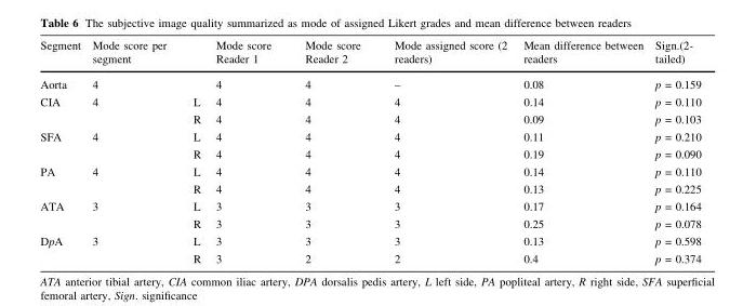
<table><thead><tr><td>Segment</td><td>Mode score per segment</td><td></td><td>Mode score Reader 1</td><td>Mode score Reader 2</td><td>Mode assigned score (2 readers)</td><td>Mean difference between readers</td><td>Sign.(2- tailed)</td></tr></thead><tbody><tr><td>Aorta</td><td>4</td><td></td><td>4</td><td>4</td><td>–</td><td>0.08</td><td>p = 0.159</td></tr><tr><td rowspan="2">CIA</td><td rowspan="2">4</td><td>L</td><td>4</td><td>4</td><td>4</td><td>0.14</td><td>p = 0.110</td></tr><tr><td>R</td><td>4</td><td>4</td><td>4</td><td>0.09</td><td>p = 0.103</td></tr><tr><td rowspan="2">SFA</td><td rowspan="2">4</td><td>L</td><td>4</td><td>4</td><td>4</td><td>0.11</td><td>p = 0.210</td></tr><tr><td>R</td><td>4</td><td>4</td><td>4</td><td>0.19</td><td>p = 0.090</td></tr><tr><td rowspan="2">PA</td><td rowspan="2">4</td><td>L</td><td>4</td><td>4</td><td>4</td><td>0.14</td><td>p = 0.110</td></tr><tr><td>R</td><td>4</td><td>4</td><td>4</td><td>0.13</td><td>p = 0.225</td></tr><tr><td rowspan="2">ATA</td><td rowspan="2">3</td><td>L</td><td>3</td><td>3</td><td>3</td><td>0.17</td><td>p = 0.164</td></tr><tr><td>R</td><td>3</td><td>3</td><td>3</td><td>0.25</td><td>p = 0.078</td></tr><tr><td rowspan="2">DpA</td><td rowspan="2">3</td><td>L</td><td>3</td><td>3</td><td>3</td><td>0.13</td><td>p = 0.598</td></tr><tr><td>R</td><td>3</td><td>2</td><td>2</td><td>0.4</td><td>p = 0.374</td></tr></tbody></table>